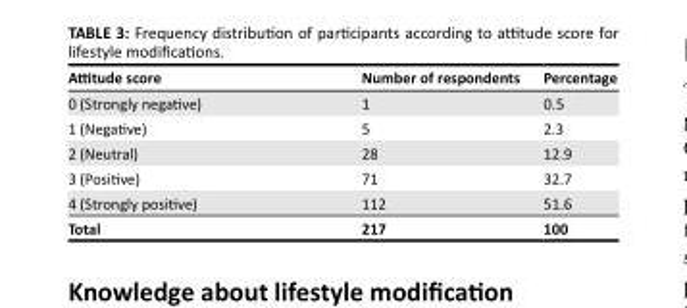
<table><thead><tr><td>Attitude score</td><td>Number of respondents</td><td>Percentage</td></tr></thead><tbody><tr><td>0 (Strongly negative)</td><td>1</td><td>0.5</td></tr><tr><td>1 (Negative)</td><td>5</td><td>2.3</td></tr><tr><td>2 (Neutral)</td><td>28</td><td>12.9</td></tr><tr><td>3 (Positive)</td><td>71</td><td>32.7</td></tr><tr><td>4 (Strongly positive)</td><td>112</td><td>51.6</td></tr><tr><td>Total</td><td>217</td><td>100</td></tr></tbody></table>